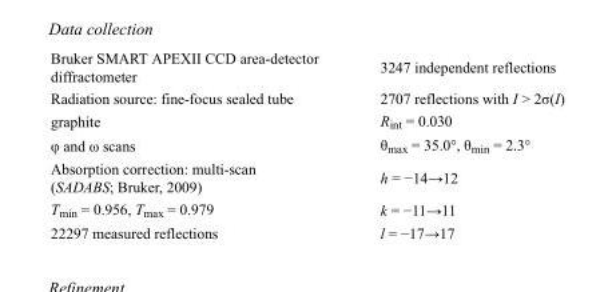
<table><tbody><tr><td>Bruker SMART APEXII CCD area-detector diffractometer</td><td>3247 independent reflections</td></tr><tr><td>Radiation source: fine-focus sealed tube</td><td>2707 reflections with I &gt; 2σ(I)</td></tr><tr><td>graphite</td><td>R<sub>int</sub> = 0.030</td></tr><tr><td>φ and ω scans</td><td>θ<sub>max</sub> = 35.0°, θ<sub>min</sub> = 2.3°</td></tr><tr><td>Absorption correction: multi-scan (SADABS; Bruker, 2009)</td><td>h = −14→12</td></tr><tr><td>T<sub>min</sub> = 0.956, T<sub>max</sub> = 0.979</td><td>k = −11→11</td></tr><tr><td>22297 measured reflections</td><td>l = −17→17</td></tr></tbody></table>